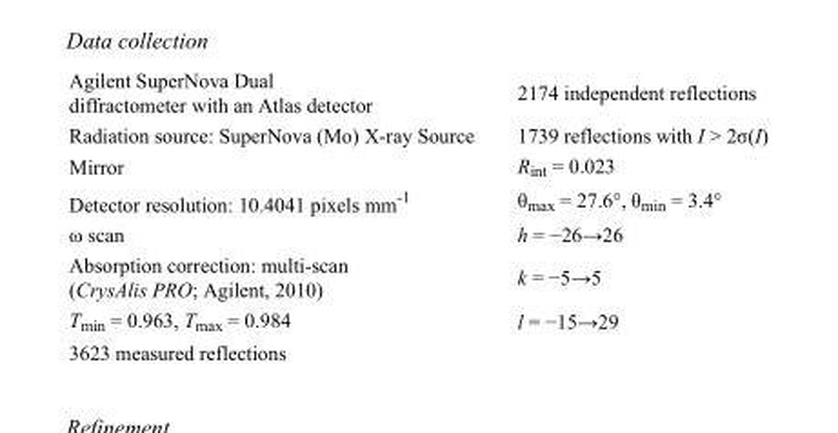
<table><tbody><tr><td>Agilent SuperNova Dual diffractometer with an Atlas detector</td><td>2174 independent reflections</td></tr><tr><td>Radiation source: SuperNova (Mo) X-ray Source</td><td>1739 reflections with I &gt; 2σ(I)</td></tr><tr><td>Mirror</td><td>R<sub>int</sub> = 0.023</td></tr><tr><td>Detector resolution: 10.4041 pixels mm<sup>-1</sup></td><td>θ<sub>max</sub> = 27.6°, θ<sub>min</sub> = 3.4°</td></tr><tr><td>ω scan</td><td>h = −26→26</td></tr><tr><td>Absorption correction: multi-scan (CrysAlis PRO; Agilent, 2010)</td><td>k = −5→5</td></tr><tr><td>T<sub>min</sub> = 0.963, T<sub>max</sub> = 0.984</td><td>l = −15→29</td></tr><tr><td>3623 measured reflections</td><td></td></tr></tbody></table>